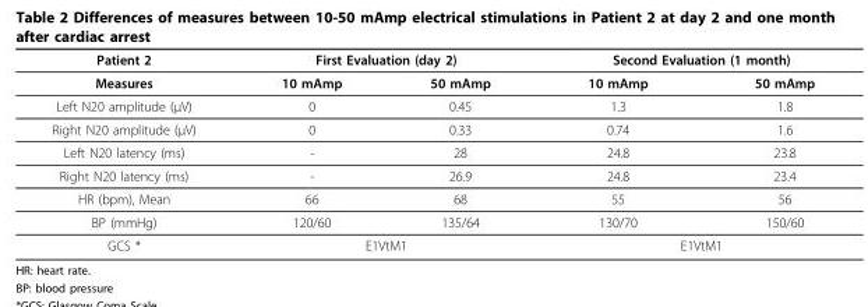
<table><thead><tr><td rowspan="2">Patient 2 Measures</td><td colspan="2">First Evaluation (day 2)</td><td colspan="2">Second Evaluation (1 month)</td></tr><tr><td>10 mAmp</td><td>50 mAmp</td><td>10 mAmp</td><td>50 mAmp</td></tr></thead><tbody><tr><td>Left N20 amplitude (μV)</td><td>0</td><td>0.45</td><td>1.3</td><td>1.8</td></tr><tr><td>Right N20 amplitude (μV)</td><td>0</td><td>0.33</td><td>0.74</td><td>1.6</td></tr><tr><td>Left N20 latency (ms)</td><td>-</td><td>28</td><td>24.8</td><td>23.8</td></tr><tr><td>Right N20 latency (ms)</td><td>-</td><td>26.9</td><td>24.8</td><td>23.4</td></tr><tr><td>HR (bpm), Mean</td><td>66</td><td>68</td><td>55</td><td>56</td></tr><tr><td>BP (mmHg)</td><td>120/60</td><td>135/64</td><td>130/70</td><td>150/60</td></tr><tr><td>GCS *</td><td colspan="2">E1VtM1</td><td colspan="2">E1VtM1</td></tr></tbody></table>